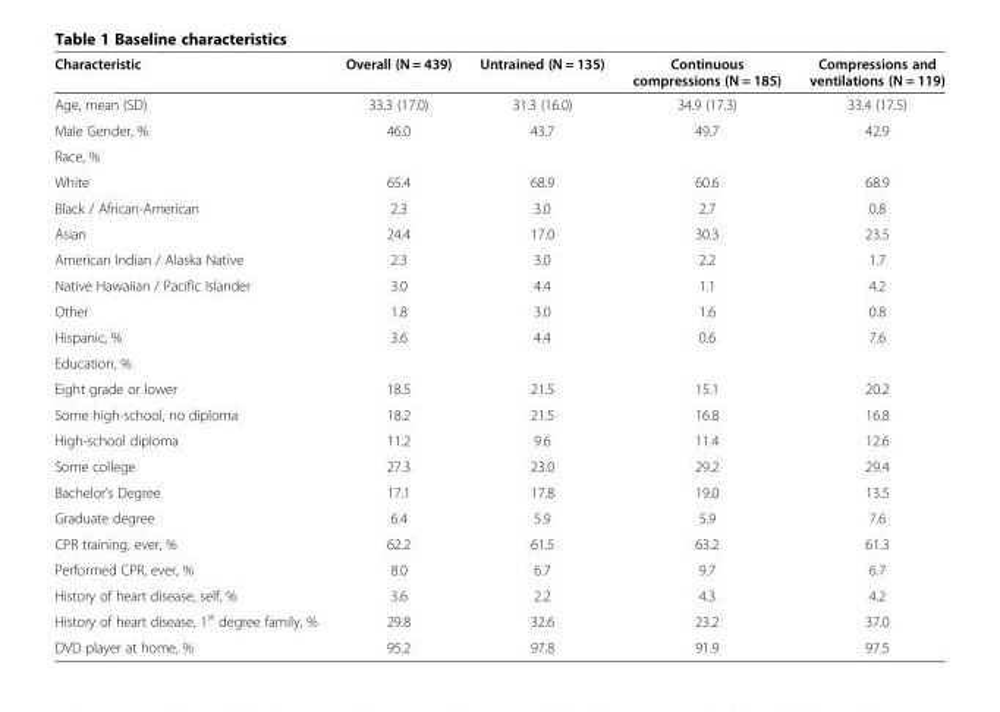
<table><thead><tr><td>Characteristic</td><td>Overall (N = 439)</td><td>Untrained (N = 135)</td><td>Continuous compressions (N = 185)</td><td>Compressions and ventilations (N = 119)</td></tr></thead><tbody><tr><td>Age, mean (SD)</td><td>33.3 (17.0)</td><td>31.3 (16.0)</td><td>34.9 (17.3)</td><td>33.4 (17.5)</td></tr><tr><td>Male Gender, %</td><td>46.0</td><td>43.7</td><td>49.7</td><td>42.9</td></tr><tr><td colspan="5">Race, %</td></tr><tr><td>White</td><td>65.4</td><td>68.9</td><td>60.6</td><td>68.9</td></tr><tr><td>Black / African-American</td><td>2.3</td><td>3.0</td><td>2.7</td><td>0.8</td></tr><tr><td>Asian</td><td>24.4</td><td>17.0</td><td>30.3</td><td>23.5</td></tr><tr><td>American Indian / Alaska Native</td><td>2.3</td><td>3.0</td><td>2.2</td><td>1.7</td></tr><tr><td>Native Hawaiian / Pacific Islander</td><td>3.0</td><td>4.4</td><td>1.1</td><td>4.2</td></tr><tr><td>Other</td><td>1.8</td><td>3.0</td><td>1.6</td><td>0.8</td></tr><tr><td>Hispanic, %</td><td>3.6</td><td>4.4</td><td>0.6</td><td>7.6</td></tr><tr><td colspan="5">Education, %</td></tr><tr><td>Eight grade or lower</td><td>18.5</td><td>21.5</td><td>15.1</td><td>20.2</td></tr><tr><td>Some high-school, no diploma</td><td>18.2</td><td>21.5</td><td>16.8</td><td>16.8</td></tr><tr><td>High-school diploma</td><td>11.2</td><td>9.6</td><td>11.4</td><td>12.6</td></tr><tr><td>Some college</td><td>27.3</td><td>23.0</td><td>29.2</td><td>29.4</td></tr><tr><td>Bachelor’s Degree</td><td>17.1</td><td>17.8</td><td>19.0</td><td>13.5</td></tr><tr><td>Graduate degree</td><td>6.4</td><td>5.9</td><td>5.9</td><td>7.6</td></tr><tr><td>CPR training, ever, %</td><td>62.2</td><td>61.5</td><td>63.2</td><td>61.3</td></tr><tr><td>Performed CPR, ever, %</td><td>8.0</td><td>6.7</td><td>9.7</td><td>6.7</td></tr><tr><td>History of heart disease, self, %</td><td>3.6</td><td>2.2</td><td>4.3</td><td>4.2</td></tr><tr><td>History of heart disease, 1<sup>st</sup> degree family, %</td><td>29.8</td><td>32.6</td><td>23.2</td><td>37.0</td></tr><tr><td>DVD player at home, %</td><td>95.2</td><td>97.8</td><td>91.9</td><td>97.5</td></tr></tbody></table>